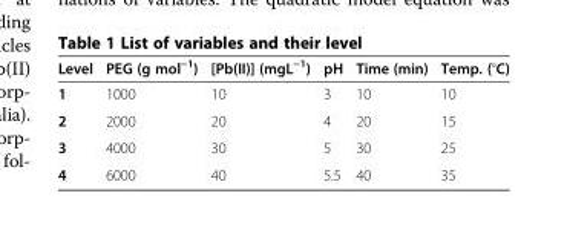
<table><thead><tr><td>Level</td><td>PEG (g mol<sup>−1</sup>)</td><td>[Pb(II)] (mgL<sup>−1</sup>)</td><td>pH</td><td>Time (min)</td><td>Temp. (°C)</td></tr></thead><tbody><tr><td>1</td><td>1000</td><td>10</td><td>3</td><td>10</td><td>10</td></tr><tr><td>2</td><td>2000</td><td>20</td><td>4</td><td>20</td><td>15</td></tr><tr><td>3</td><td>4000</td><td>30</td><td>5</td><td>30</td><td>25</td></tr><tr><td>4</td><td>6000</td><td>40</td><td>5.5</td><td>40</td><td>35</td></tr></tbody></table>